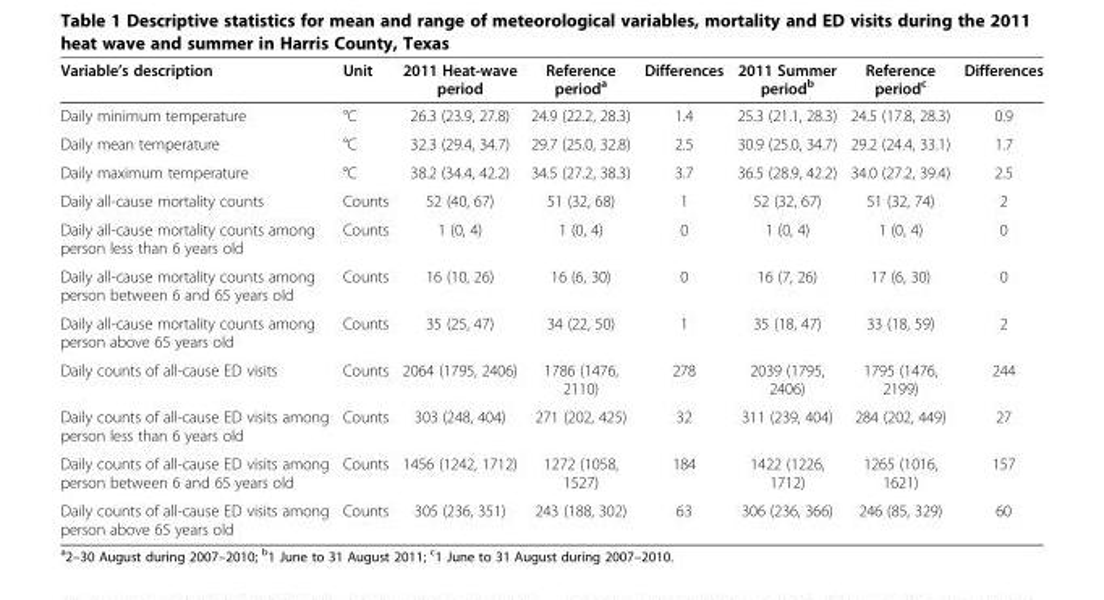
<table><thead><tr><td>Variable’s description</td><td>Unit</td><td>2011 Heat-wave period</td><td>Reference period<sup>a</sup></td><td>Differences</td><td>2011 Summer period<sup>b</sup></td><td>Reference period<sup>c</sup></td><td>Differences</td></tr></thead><tbody><tr><td>Daily minimum temperature</td><td>°C</td><td>26.3 (23.9, 27.8)</td><td>24.9 (22.2, 28.3)</td><td>1.4</td><td>25.3 (21.1, 28.3)</td><td>24.5 (17.8, 28.3)</td><td>0.9</td></tr><tr><td>Daily mean temperature</td><td>°C</td><td>32.3 (29.4, 34.7)</td><td>29.7 (25.0, 32.8)</td><td>2.5</td><td>30.9 (25.0, 34.7)</td><td>29.2 (24.4, 33.1)</td><td>1.7</td></tr><tr><td>Daily maximum temperature</td><td>°C</td><td>38.2 (34.4, 42.2)</td><td>34.5 (27.2, 38.3)</td><td>3.7</td><td>36.5 (28.9, 42.2)</td><td>34.0 (27.2, 39.4)</td><td>2.5</td></tr><tr><td>Daily all-cause mortality counts</td><td>Counts</td><td>52 (40, 67)</td><td>51 (32, 68)</td><td>1</td><td>52 (32, 67)</td><td>51 (32, 74)</td><td>2</td></tr><tr><td>Daily all-cause mortality counts among person less than 6 years old</td><td>Counts</td><td>1 (0, 4)</td><td>1 (0, 4)</td><td>0</td><td>1 (0, 4)</td><td>1 (0, 4)</td><td>0</td></tr><tr><td>Daily all-cause mortality counts among person between 6 and 65 years old</td><td>Counts</td><td>16 (10, 26)</td><td>16 (6, 30)</td><td>0</td><td>16 (7, 26)</td><td>17 (6, 30)</td><td>0</td></tr><tr><td>Daily all-cause mortality counts among person above 65 years old</td><td>Counts</td><td>35 (25, 47)</td><td>34 (22, 50)</td><td>1</td><td>35 (18, 47)</td><td>33 (18, 59)</td><td>2</td></tr><tr><td>Daily counts of all-cause ED visits</td><td>Counts</td><td>2064 (1795, 2406)</td><td>1786 (1476, 2110)</td><td>278</td><td>2039 (1795, 2406)</td><td>1795 (1476, 2199)</td><td>244</td></tr><tr><td>Daily counts of all-cause ED visits among person less than 6 years old</td><td>Counts</td><td>303 (248, 404)</td><td>271 (202, 425)</td><td>32</td><td>311 (239, 404)</td><td>284 (202, 449)</td><td>27</td></tr><tr><td>Daily counts of all-cause ED visits among person between 6 and 65 years old</td><td>Counts</td><td>1456 (1242, 1712)</td><td>1272 (1058, 1527)</td><td>184</td><td>1422 (1226, 1712)</td><td>1265 (1016, 1621)</td><td>157</td></tr><tr><td>Daily counts of all-cause ED visits among person above 65 years old</td><td>Counts</td><td>305 (236, 351)</td><td>243 (188, 302)</td><td>63</td><td>306 (236, 366)</td><td>246 (85, 329)</td><td>60</td></tr></tbody></table>